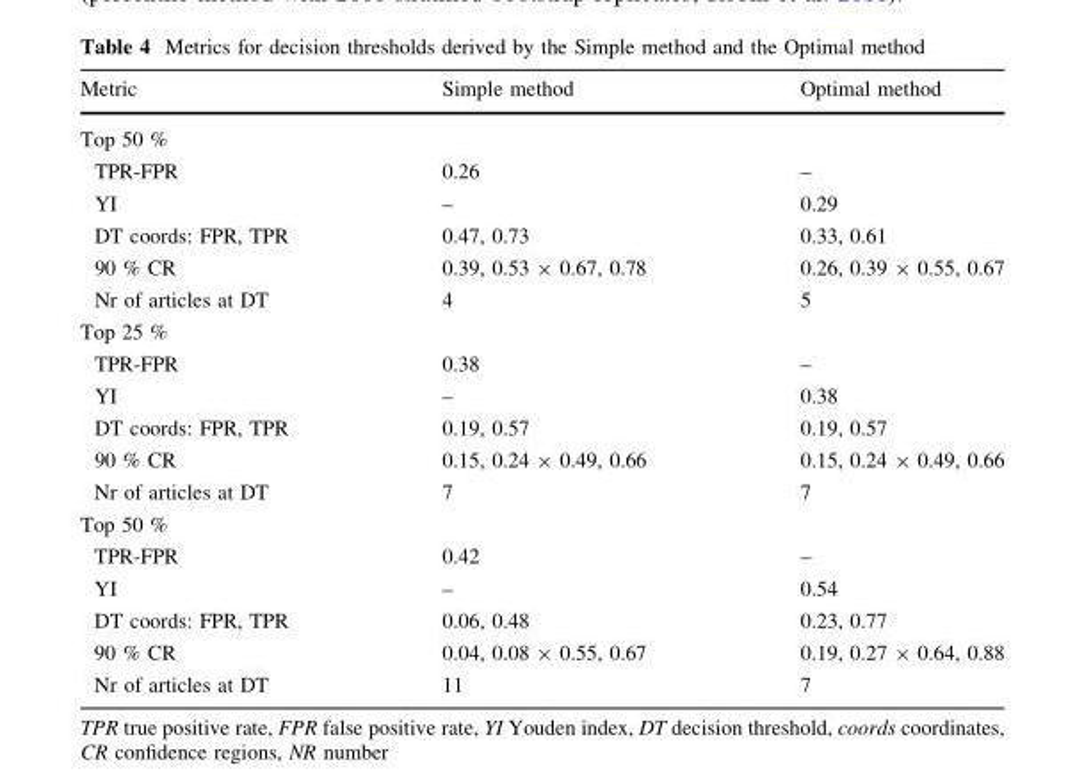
<table><thead><tr><td>Metric</td><td>Simple method</td><td>Optimal method</td></tr></thead><tbody><tr><td colspan="3">Top 50 %</td></tr><tr><td>TPR-FPR</td><td>0.26</td><td>–</td></tr><tr><td>YI</td><td>–</td><td>0.29</td></tr><tr><td>DT coords: FPR, TPR</td><td>0.47, 0.73</td><td>0.33, 0.61</td></tr><tr><td>90 % CR</td><td>0.39, 0.53 × 0.67, 0.78</td><td>0.26, 0.39 × 0.55, 0.67</td></tr><tr><td>Nr of articles at DT</td><td>4</td><td>5</td></tr><tr><td colspan="3">Top 25 %</td></tr><tr><td>TPR-FPR</td><td>0.38</td><td>–</td></tr><tr><td>YI</td><td>–</td><td>0.38</td></tr><tr><td>DT coords: FPR, TPR</td><td>0.19, 0.57</td><td>0.19, 0.57</td></tr><tr><td>90 % CR</td><td>0.15, 0.24 × 0.49, 0.66</td><td>0.15, 0.24 × 0.49, 0.66</td></tr><tr><td>Nr of articles at DT</td><td>7</td><td>7</td></tr><tr><td colspan="3">Top 50 %</td></tr><tr><td>TPR-FPR</td><td>0.42</td><td>–</td></tr><tr><td>YI</td><td>–</td><td>0.54</td></tr><tr><td>DT coords: FPR, TPR</td><td>0.06, 0.48</td><td>0.23, 0.77</td></tr><tr><td>90 % CR</td><td>0.04, 0.08 × 0.55, 0.67</td><td>0.19, 0.27 × 0.64, 0.88</td></tr><tr><td>Nr of articles at DT</td><td>11</td><td>7</td></tr></tbody></table>